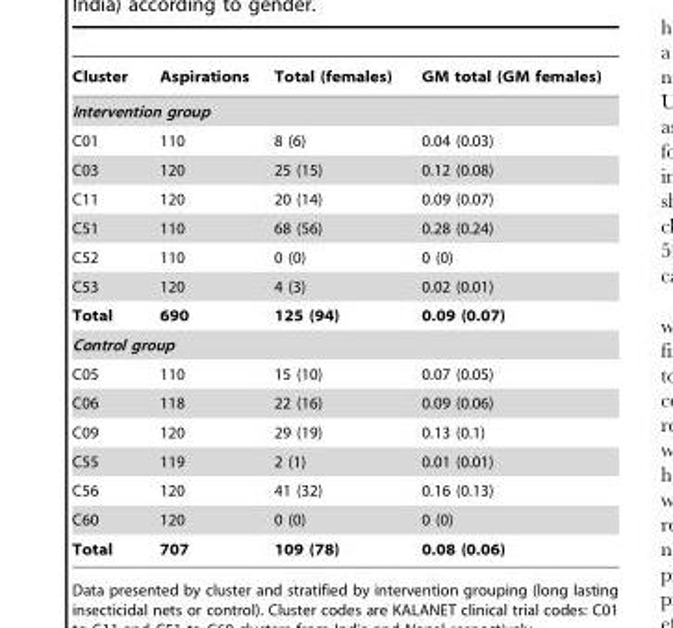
<table><thead><tr><td>Cluster</td><td>Aspirations</td><td>Total (females)</td><td>GM total (GM females)</td></tr></thead><tbody><tr><td colspan="4">Intervention group</td></tr><tr><td>C01</td><td>110</td><td>8 (6)</td><td>0.04 (0.03)</td></tr><tr><td>C03</td><td>120</td><td>25 (15)</td><td>0.12 (0.08)</td></tr><tr><td>C11</td><td>120</td><td>20 (14)</td><td>0.09 (0.07)</td></tr><tr><td>C51</td><td>110</td><td>68 (56)</td><td>0.28 (0.24)</td></tr><tr><td>C52</td><td>110</td><td>0 (0)</td><td>0 (0)</td></tr><tr><td>C53</td><td>120</td><td>4 (3)</td><td>0.02 (0.01)</td></tr><tr><td>Total</td><td>690</td><td>125 (94)</td><td>0.09 (0.07)</td></tr><tr><td colspan="4">Control group</td></tr><tr><td>C05</td><td>110</td><td>15 (10)</td><td>0.07 (0.05)</td></tr><tr><td>C06</td><td>118</td><td>22 (16)</td><td>0.09 (0.06)</td></tr><tr><td>C09</td><td>120</td><td>29 (19)</td><td>0.13 (0.1)</td></tr><tr><td>C55</td><td>119</td><td>2 (1)</td><td>0.01 (0.01)</td></tr><tr><td>C56</td><td>120</td><td>41 (32)</td><td>0.16 (0.13)</td></tr><tr><td>C60</td><td>120</td><td>0 (0)</td><td>0 (0)</td></tr><tr><td>Total</td><td>707</td><td>109 (78)</td><td>0.08 (0.06)</td></tr></tbody></table>